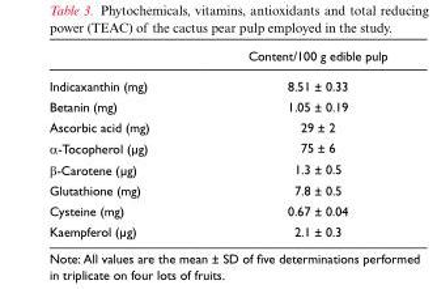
<table><thead><tr><td></td><td>Content/100 g edible pulp</td></tr></thead><tbody><tr><td>Indicaxanthin (mg)</td><td>8.51 ± 0.33</td></tr><tr><td>Betanin (mg)</td><td>1.05 ± 0.19</td></tr><tr><td>Ascorbic acid (mg)</td><td>29 ± 2</td></tr><tr><td>α-Tocopherol (µg)</td><td>75 ± 6</td></tr><tr><td>β-Carotene (µg)</td><td>1.3 ± 0.5</td></tr><tr><td>Glutathione (mg)</td><td>7.8 ± 0.5</td></tr><tr><td>Cysteine (mg)</td><td>0.67 ± 0.04</td></tr><tr><td>Kaempferol (µg)</td><td>2.1 ± 0.3</td></tr></tbody></table>